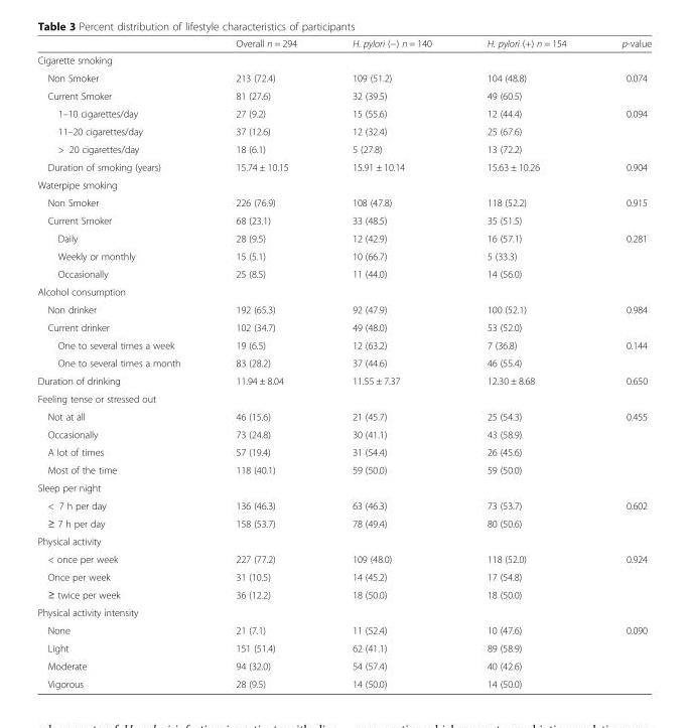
<table><thead><tr><td></td><td>Overall n = 294</td><td>H. pylori (−) n = 140</td><td>H. pylori (+) n = 154</td><td>p-value</td></tr></thead><tbody><tr><td colspan="5">Cigarette smoking</td></tr><tr><td>Non Smoker</td><td>213 (72.4)</td><td>109 (51.2)</td><td>104 (48.8)</td><td>0.074</td></tr><tr><td>Current Smoker</td><td>81 (27.6)</td><td>32 (39.5)</td><td>49 (60.5)</td><td></td></tr><tr><td>1–10 cigarettes/day</td><td>27 (9.2)</td><td>15 (55.6)</td><td>12 (44.4)</td><td>0.094</td></tr><tr><td>11–20 cigarettes/day</td><td>37 (12.6)</td><td>12 (32.4)</td><td>25 (67.6)</td><td></td></tr><tr><td>&gt; 20 cigarettes/day</td><td>18 (6.1)</td><td>5 (27.8)</td><td>13 (72.2)</td><td></td></tr><tr><td>Duration of smoking (years)</td><td>15.74 ± 10.15</td><td>15.91 ± 10.14</td><td>15.63 ± 10.26</td><td>0.904</td></tr><tr><td colspan="5">Waterpipe smoking</td></tr><tr><td>Non Smoker</td><td>226 (76.9)</td><td>108 (47.8)</td><td>118 (52.2)</td><td>0.915</td></tr><tr><td>Current Smoker</td><td>68 (23.1)</td><td>33 (48.5)</td><td>35 (51.5)</td><td></td></tr><tr><td>Daily</td><td>28 (9.5)</td><td>12 (42.9)</td><td>16 (57.1)</td><td>0.281</td></tr><tr><td>Weekly or monthly</td><td>15 (5.1)</td><td>10 (66.7)</td><td>5 (33.3)</td><td></td></tr><tr><td>Occasionally</td><td>25 (8.5)</td><td>11 (44.0)</td><td>14 (56.0)</td><td></td></tr><tr><td colspan="5">Alcohol consumption</td></tr><tr><td>Non drinker</td><td>192 (65.3)</td><td>92 (47.9)</td><td>100 (52.1)</td><td>0.984</td></tr><tr><td>Current drinker</td><td>102 (34.7)</td><td>49 (48.0)</td><td>53 (52.0)</td><td></td></tr><tr><td>One to several times a week</td><td>19 (6.5)</td><td>12 (63.2)</td><td>7 (36.8)</td><td>0.144</td></tr><tr><td>One to several times a month</td><td>83 (28.2)</td><td>37 (44.6)</td><td>46 (55.4)</td><td></td></tr><tr><td>Duration of drinking</td><td>11.94 ± 8.04</td><td>11.55 ± 7.37</td><td>12.30 ± 8.68</td><td>0.650</td></tr><tr><td colspan="5">Feeling tense or stressed out</td></tr><tr><td>Not at all</td><td>46 (15.6)</td><td>21 (45.7)</td><td>25 (54.3)</td><td>0.455</td></tr><tr><td>Occasionally</td><td>73 (24.8)</td><td>30 (41.1)</td><td>43 (58.9)</td><td></td></tr><tr><td>A lot of times</td><td>57 (19.4)</td><td>31 (54.4)</td><td>26 (45.6)</td><td></td></tr><tr><td>Most of the time</td><td>118 (40.1)</td><td>59 (50.0)</td><td>59 (50.0)</td><td></td></tr><tr><td colspan="5">Sleep per night</td></tr><tr><td>&lt; 7 h per day</td><td>136 (46.3)</td><td>63 (46.3)</td><td>73 (53.7)</td><td>0.602</td></tr><tr><td>≥ 7 h per day</td><td>158 (53.7)</td><td>78 (49.4)</td><td>80 (50.6)</td><td></td></tr><tr><td colspan="5">Physical activity</td></tr><tr><td>&lt; once per week</td><td>227 (77.2)</td><td>109 (48.0)</td><td>118 (52.0)</td><td>0.924</td></tr><tr><td>Once per week</td><td>31 (10.5)</td><td>14 (45.2)</td><td>17 (54.8)</td><td></td></tr><tr><td>≥ twice per week</td><td>36 (12.2)</td><td>18 (50.0)</td><td>18 (50.0)</td><td></td></tr><tr><td colspan="5">Physical activity intensity</td></tr><tr><td>None</td><td>21 (7.1)</td><td>11 (52.4)</td><td>10 (47.6)</td><td>0.090</td></tr><tr><td>Light</td><td>151 (51.4)</td><td>62 (41.1)</td><td>89 (58.9)</td><td></td></tr><tr><td>Moderate</td><td>94 (32.0)</td><td>54 (57.4)</td><td>40 (42.6)</td><td></td></tr><tr><td>Vigorous</td><td>28 (9.5)</td><td>14 (50.0)</td><td>14 (50.0)</td><td></td></tr></tbody></table>